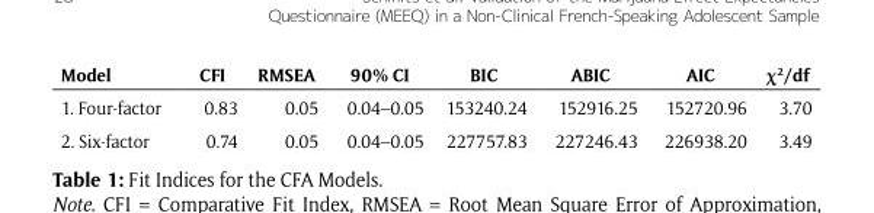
<table><thead><tr><td>Model</td><td>CFI</td><td>RMSEA</td><td>90% CI</td><td>BIC</td><td>ABIC</td><td>AIC</td><td>χ<sup>2</sup>/df</td></tr></thead><tbody><tr><td>1. Four-factor</td><td>0.83</td><td>0.05</td><td>0.04–0.05</td><td>153240.24</td><td>152916.25</td><td>152720.96</td><td>3.70</td></tr><tr><td>2. Six-factor</td><td>0.74</td><td>0.05</td><td>0.04–0.05</td><td>227757.83</td><td>227246.43</td><td>226938.20</td><td>3.49</td></tr></tbody></table>